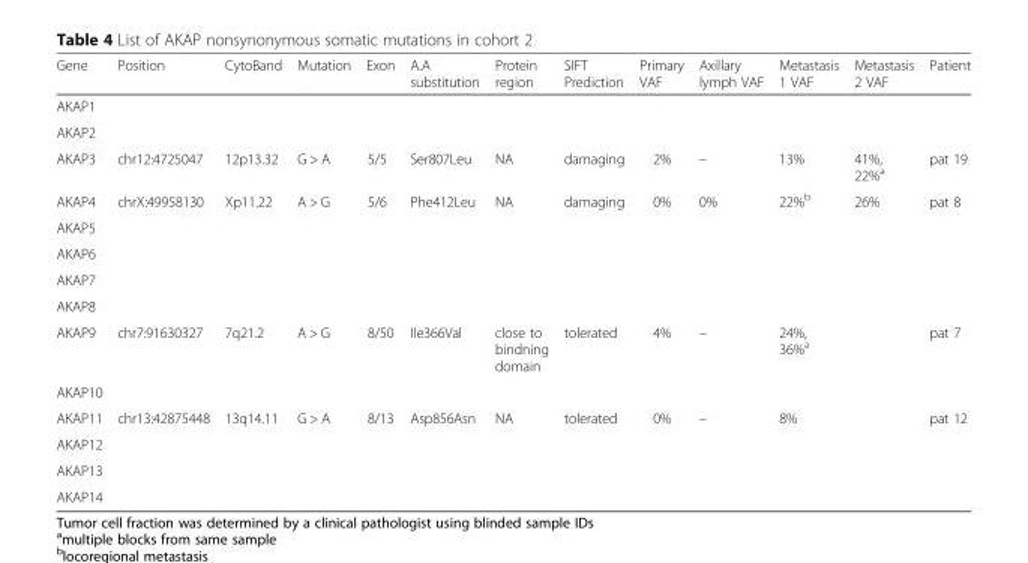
<table><thead><tr><td>Gene</td><td>Position</td><td>CytoBand</td><td>Mutation</td><td>Exon</td><td>A.A substitution</td><td>Protein region</td><td>SIFT Prediction</td><td>Primary VAF</td><td>Axillary lymph VAF</td><td>Metastasis 1 VAF</td><td>Metastasis 2 VAF</td><td>Patient</td></tr></thead><tbody><tr><td colspan="13">AKAP1</td></tr><tr><td colspan="13">AKAP2</td></tr><tr><td>AKAP3</td><td>chr12:4725047</td><td>12p13.32</td><td>G &gt; A</td><td>5/5</td><td>Ser807Leu</td><td>NA</td><td>damaging</td><td>2%</td><td>–</td><td>13%</td><td>41%, 22%<sup>a</sup></td><td>pat 19</td></tr><tr><td>AKAP4</td><td>chrX:49958130</td><td>Xp11.22</td><td>A &gt; G</td><td>5/6</td><td>Phe412Leu</td><td>NA</td><td>damaging</td><td>0%</td><td>0%</td><td>22%<sup>b</sup></td><td>26%</td><td>pat 8</td></tr><tr><td colspan="13">AKAP5</td></tr><tr><td colspan="13">AKAP6</td></tr><tr><td colspan="13">AKAP7</td></tr><tr><td colspan="13">AKAP8</td></tr><tr><td>AKAP9</td><td>chr7:91630327</td><td>7q21.2</td><td>A &gt; G</td><td>8/50</td><td>Ile366Val</td><td>close to bindning domain</td><td>tolerated</td><td>4%</td><td>–</td><td>24%, 36%<sup>a</sup></td><td></td><td>pat 7</td></tr><tr><td colspan="13">AKAP10</td></tr><tr><td>AKAP11</td><td>chr13:42875448</td><td>13q14.11</td><td>G &gt; A</td><td>8/13</td><td>Asp856Asn</td><td>NA</td><td>tolerated</td><td>0%</td><td>–</td><td>8%</td><td></td><td>pat 12</td></tr><tr><td colspan="13">AKAP12</td></tr><tr><td colspan="13">AKAP13</td></tr><tr><td>AKAP14</td><td></td><td></td><td></td><td></td><td></td><td></td><td></td><td></td><td></td><td></td><td></td><td></td></tr></tbody></table>